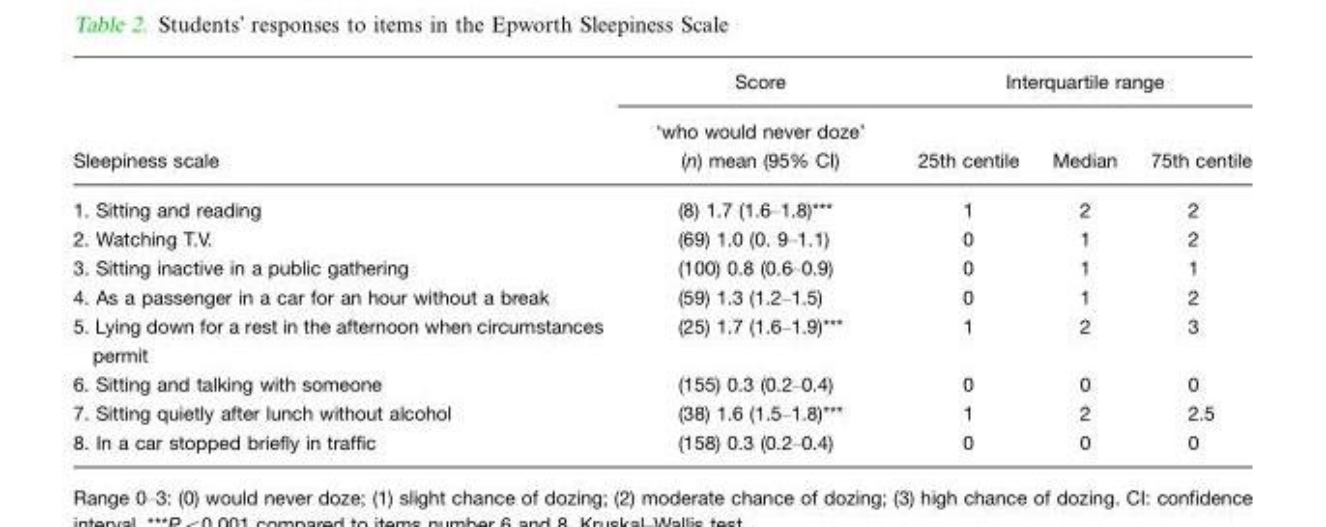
<table><thead><tr><td rowspan="2">Sleepiness scale</td><td rowspan="2">Score ‘who would never doze’ (n) mean (95% CI)</td><td colspan="3">Interquartile range</td></tr><tr><td>25th centile</td><td>Median</td><td>75th centile</td></tr></thead><tbody><tr><td>1. Sitting and reading</td><td>(8) 1.7 (1.6–1.8)***</td><td>1</td><td>2</td><td>2</td></tr><tr><td>2. Watching T.V.</td><td>(69) 1.0 (0. 9–1.1)</td><td>0</td><td>1</td><td>2</td></tr><tr><td>3. Sitting inactive in a public gathering</td><td>(100) 0.8 (0.6–0.9)</td><td>0</td><td>1</td><td>1</td></tr><tr><td>4. As a passenger in a car for an hour without a break</td><td>(59) 1.3 (1.2–1.5)</td><td>0</td><td>1</td><td>2</td></tr><tr><td>5. Lying down for a rest in the afternoon when circumstances permit</td><td>(25) 1.7 (1.6–1.9)***</td><td>1</td><td>2</td><td>3</td></tr><tr><td>6. Sitting and talking with someone</td><td>(155) 0.3 (0.2–0.4)</td><td>0</td><td>0</td><td>0</td></tr><tr><td>7. Sitting quietly after lunch without alcohol</td><td>(38) 1.6 (1.5–1.8)***</td><td>1</td><td>2</td><td>2.5</td></tr><tr><td>8. In a car stopped briefly in traffic</td><td>(158) 0.3 (0.2–0.4)</td><td>0</td><td>0</td><td>0</td></tr></tbody></table>